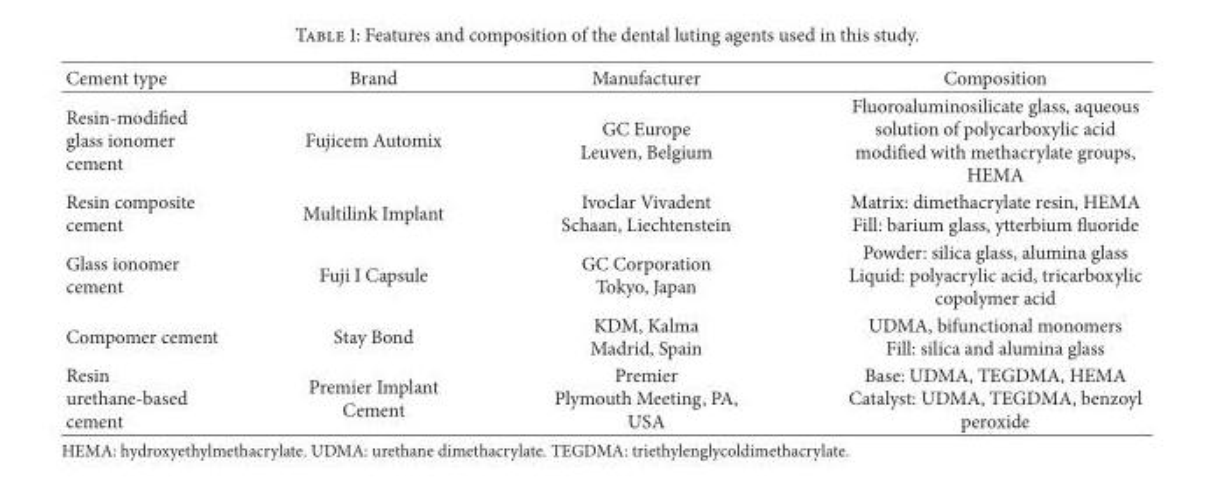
<table><thead><tr><td>Cement type</td><td>Brand</td><td>Manufacturer</td><td>Composition</td></tr></thead><tbody><tr><td>Resin-modified glass ionomer cement</td><td>Fujicem Automix</td><td>GC Europe Leuven, Belgium</td><td>Fluoroaluminosilicate glass, aqueous solution of polycarboxylic acid modified with methacrylate groups, HEMA</td></tr><tr><td>Resin composite cement</td><td>Multilink Implant</td><td>Ivoclar Vivadent Schaan, Liechtenstein</td><td>Matrix: dimethacrylate resin, HEMA Fill: barium glass, ytterbium fluoride</td></tr><tr><td>Glass ionomer cement</td><td>Fuji I Capsule</td><td>GC Corporation Tokyo, Japan</td><td>Powder: silica glass, alumina glass Liquid: polyacrylic acid, tricarboxylic copolymer acid</td></tr><tr><td>Compomer cement</td><td>Stay Bond</td><td>KDM, Kalma Madrid, Spain</td><td>UDMA, bifunctional monomers Fill: silica and alumina glass</td></tr><tr><td>Resin urethane-based cement</td><td>Premier Implant Cement</td><td>Premier Plymouth Meeting, PA, USA</td><td>Base: UDMA, TEGDMA, HEMA Catalyst: UDMA, TEGDMA, benzoyl peroxide</td></tr></tbody></table>